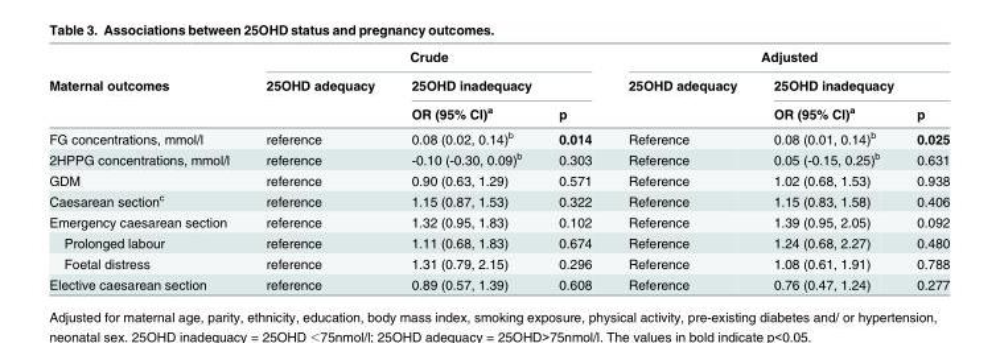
<table><thead><tr><td rowspan="3">Maternal outcomes</td><td colspan="3">Crude</td><td colspan="3">Adjusted</td></tr><tr><td rowspan="2">25OHD adequacy</td><td colspan="2">25OHD inadequacy</td><td rowspan="2">25OHD adequacy</td><td colspan="2">25OHD inadequacy</td></tr><tr><td>OR (95% CI)<sup>a</sup></td><td>p</td><td>OR (95% CI)<sup>a</sup></td><td>p</td></tr></thead><tbody><tr><td>FG concentrations, mmol/l</td><td>reference</td><td>0.08 (0.02, 0.14)<sup>b</sup></td><td>0.014</td><td>Reference</td><td>0.08 (0.01, 0.14)<sup>b</sup></td><td>0.025</td></tr><tr><td>2HPPG concentrations, mmol/l</td><td>reference</td><td>-0.10 (-0.30, 0.09)<sup>b</sup></td><td>0.303</td><td>Reference</td><td>0.05 (-0.15, 0.25)<sup>b</sup></td><td>0.631</td></tr><tr><td>GDM</td><td>reference</td><td>0.90 (0.63, 1.29)</td><td>0.571</td><td>Reference</td><td>1.02 (0.68, 1.53)</td><td>0.938</td></tr><tr><td>Caesarean section<sup>c</sup></td><td>reference</td><td>1.15 (0.87, 1.53)</td><td>0.322</td><td>Reference</td><td>1.15 (0.83, 1.58)</td><td>0.406</td></tr><tr><td>Emergency caesarean section</td><td>reference</td><td>1.32 (0.95, 1.83)</td><td>0.102</td><td>Reference</td><td>1.39 (0.95, 2.05)</td><td>0.092</td></tr><tr><td>Prolonged labour</td><td>reference</td><td>1.11 (0.68, 1.83)</td><td>0.674</td><td>Reference</td><td>1.24 (0.68, 2.27)</td><td>0.480</td></tr><tr><td>Foetal distress</td><td>reference</td><td>1.31 (0.79, 2.15)</td><td>0.296</td><td>Reference</td><td>1.08 (0.61, 1.91)</td><td>0.788</td></tr><tr><td>Elective caesarean section</td><td>reference</td><td>0.89 (0.57, 1.39)</td><td>0.608</td><td>Reference</td><td>0.76 (0.47, 1.24)</td><td>0.277</td></tr></tbody></table>